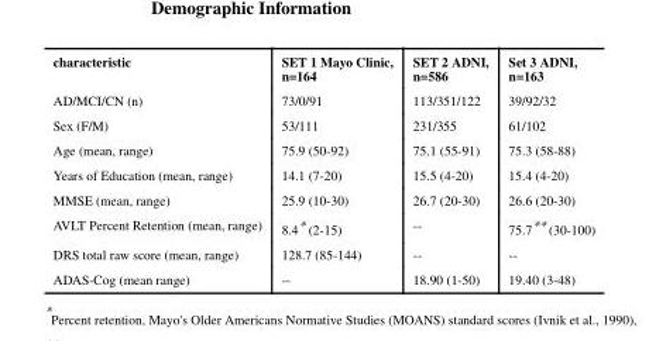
<table><thead><tr><td>characteristic</td><td>SET 1 Mayo Clinic, n=164</td><td>SET 2 ADNI, n=586</td><td>Set 3 ADNI, n=163</td></tr></thead><tbody><tr><td>AD/MCI/CN (n)</td><td>73/0/91</td><td>113/351/122</td><td>39/92/32</td></tr><tr><td>Sex (F/M)</td><td>53/111</td><td>231/355</td><td>61/102</td></tr><tr><td>Age (mean, range)</td><td>75.9 (50-92)</td><td>75.1 (55-91)</td><td>75.3 (58-88)</td></tr><tr><td>Years of Education (mean, range)</td><td>14.1 (7-20)</td><td>15.5 (4-20)</td><td>15.4 (4-20)</td></tr><tr><td>MMSE (mean, range)</td><td>25.9 (10-30)</td><td>26.7 (20-30)</td><td>26.6 (20-30)</td></tr><tr><td>AVLT Percent Retention (mean, range)</td><td>8.4* (2-15)</td><td>--</td><td>75.7** (30-100)</td></tr><tr><td>DRS total raw score (mean, range)</td><td>128.7 (85-144)</td><td>--</td><td>--</td></tr><tr><td>ADAS-Cog (mean range)</td><td>--</td><td>18.90 (1-50)</td><td>19.40 (3-48)</td></tr></tbody></table>